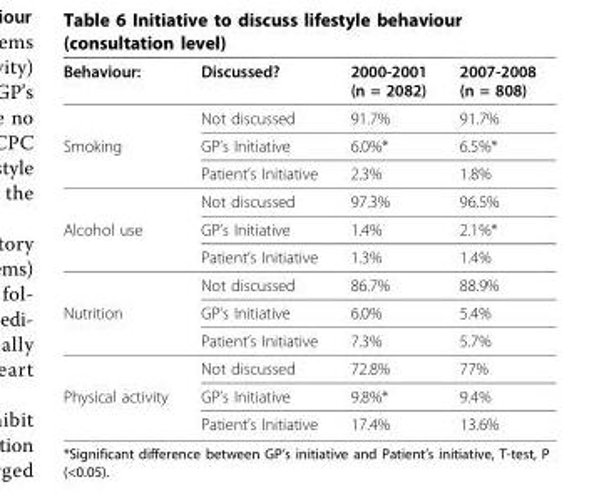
<table><thead><tr><td>Behaviour:</td><td>Discussed?</td><td>2000-2001 (n = 2082)</td><td>2007-2008 (n = 808)</td></tr></thead><tbody><tr><td></td><td>Not discussed</td><td>91.7%</td><td>91.7%</td></tr><tr><td rowspan="3">Smoking</td><td>GP’s Initiative</td><td>6.0%*</td><td>6.5%*</td></tr><tr><td>Patient’s Initiative</td><td>2.3%</td><td>1.8%</td></tr><tr><td>Not discussed</td><td>97.3%</td><td>96.5%</td></tr><tr><td rowspan="3">Alcohol use</td><td>GP’s Initiative</td><td>1.4%</td><td>2.1%*</td></tr><tr><td>Patient’s Initiative</td><td>1.3%</td><td>1.4%</td></tr><tr><td>Not discussed</td><td>86.7%</td><td>88.9%</td></tr><tr><td rowspan="3">Nutrition</td><td>GP’s Initiative</td><td>6.0%</td><td>5.4%</td></tr><tr><td>Patient’s Initiative</td><td>7.3%</td><td>5.7%</td></tr><tr><td>Not discussed</td><td>72.8%</td><td>77%</td></tr><tr><td rowspan="2">Physical activity</td><td>GP’s Initiative</td><td>9.8%*</td><td>9.4%</td></tr><tr><td>Patient’s Initiative</td><td>17.4%</td><td>13.6%</td></tr></tbody></table>